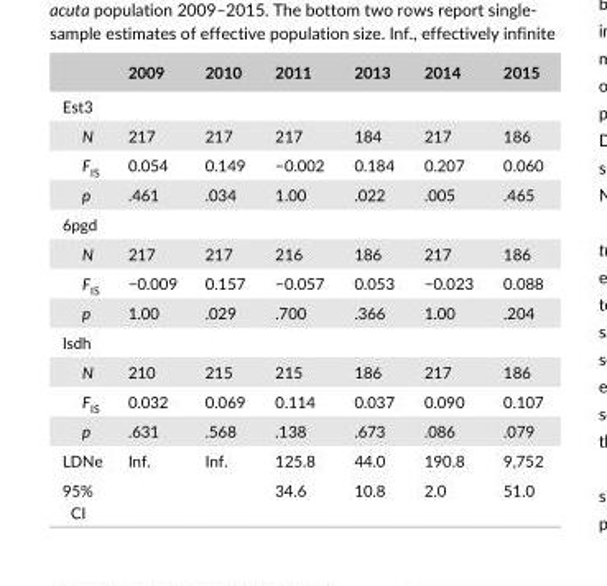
<table><thead><tr><td></td><td>2009</td><td>2010</td><td>2011</td><td>2013</td><td>2014</td><td>2015</td></tr></thead><tbody><tr><td colspan="7">Est3</td></tr><tr><td>N</td><td>217</td><td>217</td><td>217</td><td>184</td><td>217</td><td>186</td></tr><tr><td>F<sub>IS</sub></td><td>0.054</td><td>0.149</td><td>−0.002</td><td>0.184</td><td>0.207</td><td>0.060</td></tr><tr><td>p</td><td>.461</td><td>.034</td><td>1.00</td><td>.022</td><td>.005</td><td>.465</td></tr><tr><td colspan="7">6pgd</td></tr><tr><td>N</td><td>217</td><td>217</td><td>216</td><td>186</td><td>217</td><td>186</td></tr><tr><td>F<sub>IS</sub></td><td>−0.009</td><td>0.157</td><td>−0.057</td><td>0.053</td><td>−0.023</td><td>0.088</td></tr><tr><td>p</td><td>1.00</td><td>.029</td><td>.700</td><td>.366</td><td>1.00</td><td>.204</td></tr><tr><td colspan="7">Isdh</td></tr><tr><td>N</td><td>210</td><td>215</td><td>215</td><td>186</td><td>217</td><td>186</td></tr><tr><td>F<sub>IS</sub></td><td>0.032</td><td>0.069</td><td>0.114</td><td>0.037</td><td>0.090</td><td>0.107</td></tr><tr><td>p</td><td>.631</td><td>.568</td><td>.138</td><td>.673</td><td>.086</td><td>.079</td></tr><tr><td>LDNe</td><td>Inf.</td><td>Inf.</td><td>125.8</td><td>44.0</td><td>190.8</td><td>9,752</td></tr><tr><td>95% CI</td><td></td><td></td><td>34.6</td><td>10.8</td><td>2.0</td><td>51.0</td></tr></tbody></table>